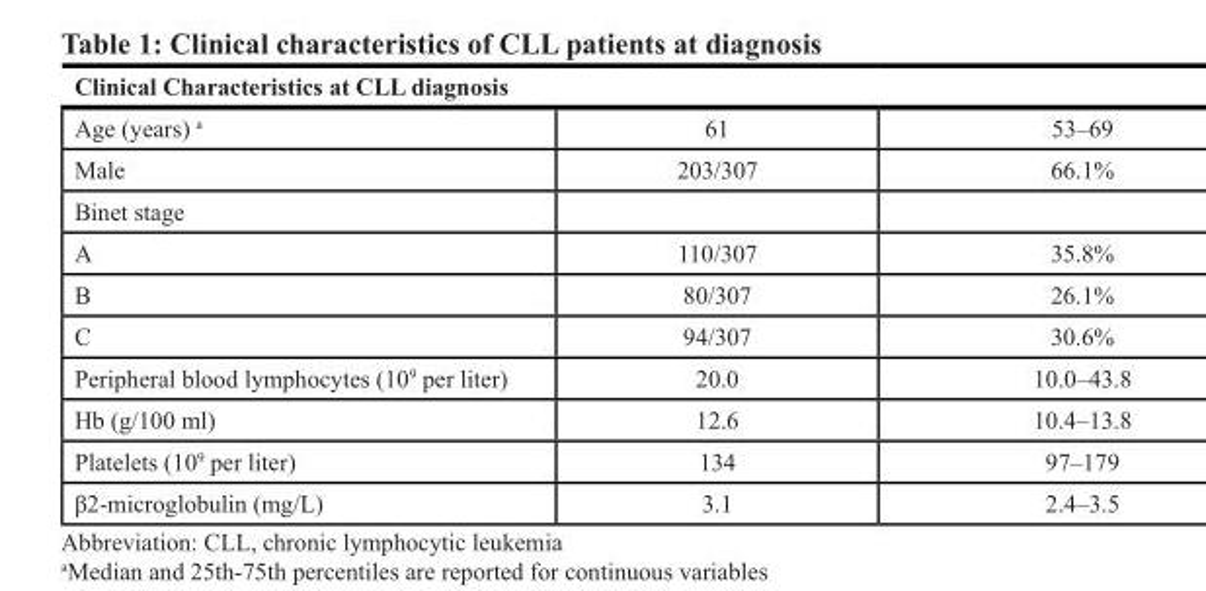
<table><thead><tr><td colspan="3">Clinical Characteristics at CLL diagnosis</td></tr><tr><td>Age (years) <sup>a</sup></td><td>61</td><td>53–69</td></tr></thead><tbody><tr><td>Male</td><td>203/307</td><td>66.1%</td></tr><tr><td colspan="3">Binet stage</td></tr><tr><td>A</td><td>110/307</td><td>35.8%</td></tr><tr><td>B</td><td>80/307</td><td>26.1%</td></tr><tr><td>C</td><td>94/307</td><td>30.6%</td></tr><tr><td>Peripheral blood lymphocytes (10<sup>9</sup> per liter)</td><td>20.0</td><td>10.0–43.8</td></tr><tr><td>Hb (g/100 ml)</td><td>12.6</td><td>10.4–13.8</td></tr><tr><td>Platelets (10<sup>9</sup> per liter)</td><td>134</td><td>97–179</td></tr><tr><td>β2-microglobulin (mg/L)</td><td>3.1</td><td>2.4–3.5</td></tr></tbody></table>